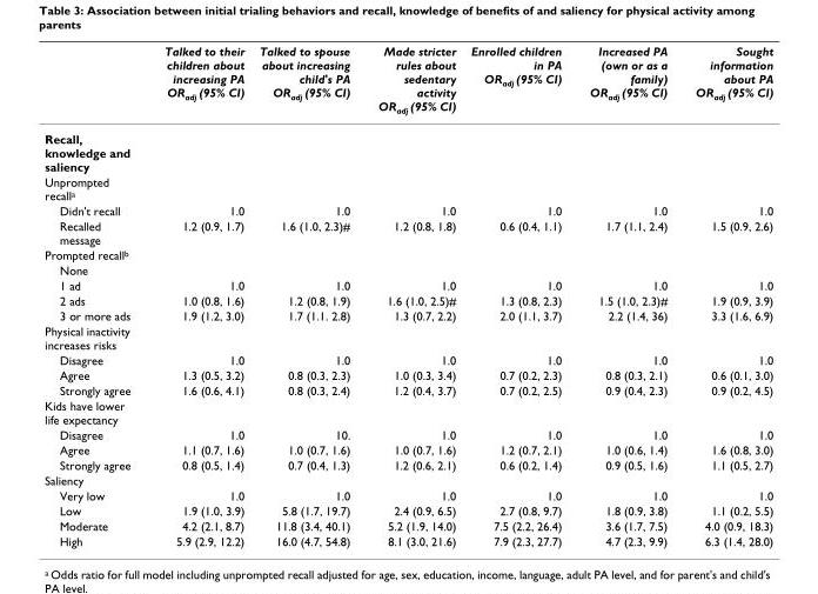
<table><thead><tr><td></td><td>Talked to their children about increasing PA OR<sub>adj</sub> (95% CI)</td><td>Talked to spouse about increasing child&#x27;s PA OR<sub>adj</sub> (95% CI)</td><td>Made stricter rules about sedentary activity OR<sub>adj</sub> (95% CI)</td><td>Enrolled children in PA OR<sub>adj</sub> (95% CI)</td><td>Increased PA (own or as a family) OR<sub>adj</sub> (95% CI)</td><td>Sought information about PA OR<sub>adj</sub> (95% CI)</td></tr></thead><tbody><tr><td colspan="7">Recall, knowledge and saliency</td></tr><tr><td colspan="7">Unprompted recall<sup>a</sup></td></tr><tr><td>Didn&#x27;t recall</td><td>1.0</td><td>1.0</td><td>1.0</td><td>1.0</td><td>1.0</td><td>1.0</td></tr><tr><td>Recalled message</td><td>1.2 (0.9, 1.7)</td><td>1.6 (1.0, 2.3)#</td><td>1.2 (0.8, 1.8)</td><td>0.6 (0.4, 1.1)</td><td>1.7 (1.1, 2.4)</td><td>1.5 (0.9, 2.6)</td></tr><tr><td colspan="7">Prompted recall<sup>b</sup></td></tr><tr><td colspan="7">None</td></tr><tr><td>1 ad</td><td>1.0</td><td>1.0</td><td>1.0</td><td>1.0</td><td>1.0</td><td>1.0</td></tr><tr><td>2 ads</td><td>1.0 (0.8, 1.6)</td><td>1.2 (0.8, 1.9)</td><td>1.6 (1.0, 2.5)#</td><td>1.3 (0.8, 2.3)</td><td>1.5 (1.0, 2.3)#</td><td>1.9 (0.9, 3.9)</td></tr><tr><td>3 or more ads</td><td>1.9 (1.2, 3.0)</td><td>1.7 (1.1. 2.8)</td><td>1.3 (0.7, 2.2)</td><td>2.0 (1.1, 3.7)</td><td>2.2 (1.4, 36)</td><td>3.3 (1.6, 6.9)</td></tr><tr><td colspan="7">Physical inactivity increases risks</td></tr><tr><td>Disagree</td><td>1.0</td><td>1.0</td><td>1.0</td><td>1.0</td><td>1.0</td><td>1.0</td></tr><tr><td>Agree</td><td>1.3 (0.5, 3.2)</td><td>0.8 (0.3, 2.3)</td><td>1.0 (0.3, 3.4)</td><td>0.7 (0.2, 2.3)</td><td>0.8 (0.3, 2.1)</td><td>0.6 (0.1, 3.0)</td></tr><tr><td>Strongly agree</td><td>1.6 (0.6, 4.1)</td><td>0.8 (0.3, 2.4)</td><td>1.2 (0.4, 3.7)</td><td>0.7 (0.2, 2.5)</td><td>0.9 (0.4, 2.3)</td><td>0.9 (0.2, 4.5)</td></tr><tr><td colspan="7">Kids have lower life expectancy</td></tr><tr><td>Disagree</td><td>1.0</td><td>10.</td><td>1.0</td><td>1.0</td><td>1.0</td><td>1.0</td></tr><tr><td>Agree</td><td>1.1 (0.7, 1.6)</td><td>1.0 (0.7, 1.6)</td><td>1.0 (0.7, 1.6)</td><td>1.2 (0.7, 2.1)</td><td>1.0 (0.6, 1.4)</td><td>1.6 (0.8, 3.0)</td></tr><tr><td>Strongly agree</td><td>0.8 (0.5, 1.4)</td><td>0.7 (0.4, 1.3)</td><td>1.2 (0.6, 2.1)</td><td>0.6 (0.2, 1.4)</td><td>0.9 (0.5, 1.6)</td><td>1.1 (0.5, 2.7)</td></tr><tr><td colspan="7">Saliency</td></tr><tr><td>Very low</td><td>1.0</td><td>1.0</td><td>1.0</td><td>1.0</td><td>1.0</td><td>1.0</td></tr><tr><td>Low</td><td>1.9 (1.0, 3.9)</td><td>5.8 (1.7, 19.7)</td><td>2.4 (0.9, 6.5)</td><td>2.7 (0.8, 9.7)</td><td>1.8 (0.9, 3.8)</td><td>1.1 (0.2, 5.5)</td></tr><tr><td>Moderate</td><td>4.2 (2.1, 8.7)</td><td>11.8 (3.4, 40.1)</td><td>5.2 (1.9, 14.0)</td><td>7.5 (2.2, 26.4)</td><td>3.6 (1.7, 7.5)</td><td>4.0 (0.9, 18.3)</td></tr><tr><td>High</td><td>5.9 (2.9, 12.2)</td><td>16.0 (4.7, 54.8)</td><td>8.1 (3.0, 21.6)</td><td>7.9 (2.3, 27.7)</td><td>4.7 (2.3, 9.9)</td><td>6.3 (1.4, 28.0)</td></tr></tbody></table>